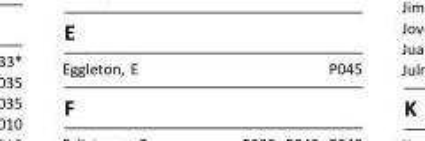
<table><tbody><tr><td>Eggleton, E</td><td>P045</td></tr></tbody></table>